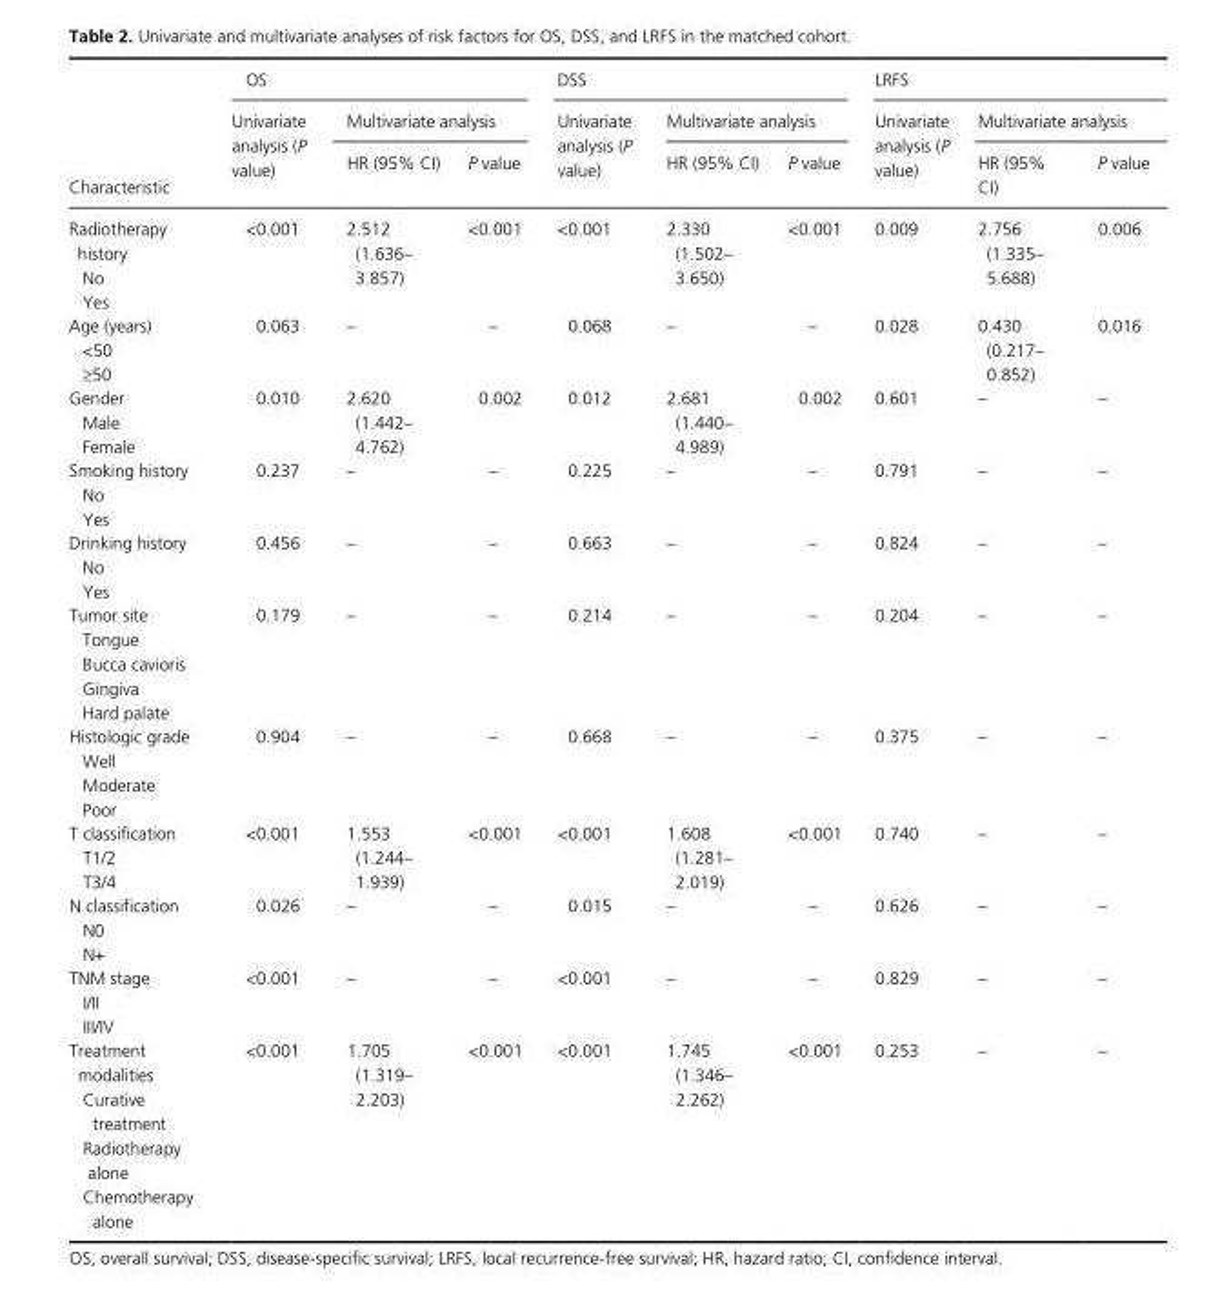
<table><thead><tr><td rowspan="3">Characteristic</td><td colspan="3">OS</td><td colspan="3">DSS</td><td colspan="3">LRFS</td></tr><tr><td rowspan="2">Univariate analysis (P value)</td><td colspan="2">Multivariate analysis</td><td rowspan="2">Univariate analysis (P value)</td><td colspan="2">Multivariate analysis</td><td rowspan="2">Univariate analysis (P value)</td><td colspan="2">Multivariate analysis</td></tr><tr><td>HR (95% CI)</td><td>P value</td><td>HR (95% CI)</td><td>P value</td><td>HR (95% CI)</td><td>P value</td></tr></thead><tbody><tr><td>Radiotherapy history No Yes</td><td>&lt;0.001</td><td>2.512 (1.636– 3.857)</td><td>&lt;0.001</td><td>&lt;0.001</td><td>2.330 (1.502– 3.650)</td><td>&lt;0.001</td><td>0.009</td><td>2.756 (1.335– 5.688)</td><td>0.006</td></tr><tr><td>Age (years) &lt;50 ≥50</td><td>0.063</td><td>–</td><td>–</td><td>0.068</td><td>–</td><td>–</td><td>0.028</td><td>0.430 (0.217– 0.852)</td><td>0.016</td></tr><tr><td>Gender Male Female</td><td>0.010</td><td>2.620 (1.442– 4.762)</td><td>0.002</td><td>0.012</td><td>2.681 (1.440– 4.989)</td><td>0.002</td><td>0.601</td><td>–</td><td>–</td></tr><tr><td>Smoking history No Yes</td><td>0.237</td><td>–</td><td>–</td><td>0.225</td><td>–</td><td>–</td><td>0.791</td><td>–</td><td>–</td></tr><tr><td>Drinking history No Yes</td><td>0.456</td><td>–</td><td>–</td><td>0.663</td><td>–</td><td>–</td><td>0.824</td><td>–</td><td>–</td></tr><tr><td>Tumor site Tongue Bucca cavioris Gingiva Hard palate</td><td>0.179</td><td>–</td><td>–</td><td>0.214</td><td>–</td><td>–</td><td>0.204</td><td>–</td><td>–</td></tr><tr><td>Histologic grade Well Moderate Poor</td><td>0.904</td><td>–</td><td>–</td><td>0.668</td><td>–</td><td>–</td><td>0.375</td><td>–</td><td>–</td></tr><tr><td>T classification T1/2 T3/4</td><td>&lt;0.001</td><td>1.553 (1.244– 1.939)</td><td>&lt;0.001</td><td>&lt;0.001</td><td>1.608 (1.281– 2.019)</td><td>&lt;0.001</td><td>0.740</td><td>–</td><td>–</td></tr><tr><td>N classification N0 N+</td><td>0.026</td><td>–</td><td>–</td><td>0.015</td><td>–</td><td>–</td><td>0.626</td><td>–</td><td>–</td></tr><tr><td>TNM stage I/II III/IV</td><td>&lt;0.001</td><td>–</td><td>–</td><td>&lt;0.001</td><td>–</td><td>–</td><td>0.829</td><td>–</td><td>–</td></tr><tr><td>Treatment modalities Curative treatment Radiotherapy alone Chemotherapy alone</td><td>&lt;0.001</td><td>1.705 (1.319– 2.203)</td><td>&lt;0.001</td><td>&lt;0.001</td><td>1.745 (1.346– 2.262)</td><td>&lt;0.001</td><td>0.253</td><td>–</td><td>–</td></tr></tbody></table>